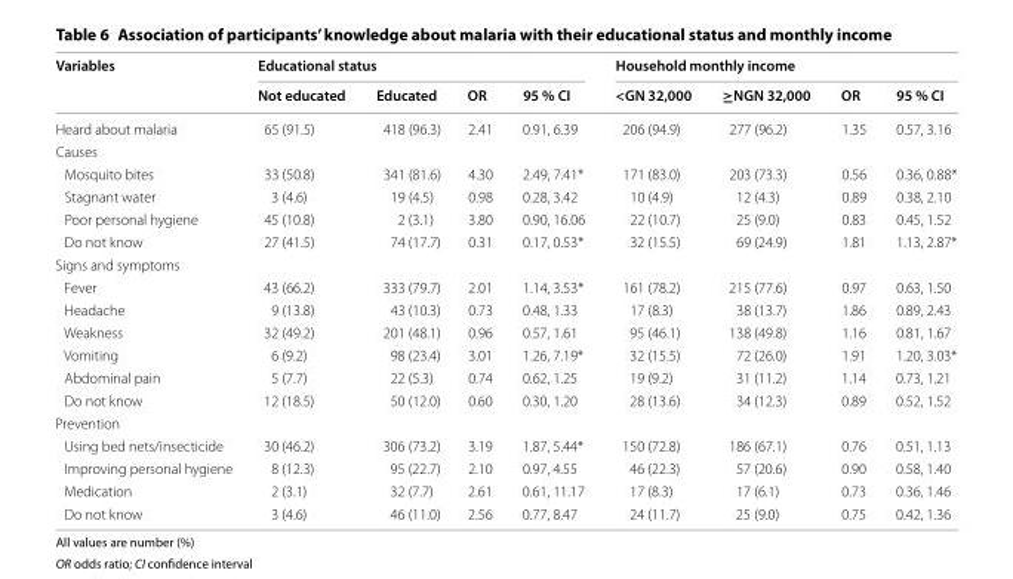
<table><thead><tr><td rowspan="2">Variables</td><td colspan="4">Educational status</td><td colspan="4">Household monthly income</td></tr><tr><td>Not educated</td><td>Educated</td><td>OR</td><td>95 % CI</td><td>&lt;GN 32,000</td><td>≥NGN 32,000</td><td>OR</td><td>95 % CI</td></tr></thead><tbody><tr><td>Heard about malaria</td><td>65 (91.5)</td><td>418 (96.3)</td><td>2.41</td><td>0.91, 6.39</td><td>206 (94.9)</td><td>277 (96.2)</td><td>1.35</td><td>0.57, 3.16</td></tr><tr><td colspan="9">Causes</td></tr><tr><td>Mosquito bites</td><td>33 (50.8)</td><td>341 (81.6)</td><td>4.30</td><td>2.49, 7.41*</td><td>171 (83.0)</td><td>203 (73.3)</td><td>0.56</td><td>0.36, 0.88*</td></tr><tr><td>Stagnant water</td><td>3 (4.6)</td><td>19 (4.5)</td><td>0.98</td><td>0.28, 3.42</td><td>10 (4.9)</td><td>12 (4.3)</td><td>0.89</td><td>0.38, 2.10</td></tr><tr><td>Poor personal hygiene</td><td>45 (10.8)</td><td>2 (3.1)</td><td>3.80</td><td>0.90, 16.06</td><td>22 (10.7)</td><td>25 (9.0)</td><td>0.83</td><td>0.45, 1.52</td></tr><tr><td>Do not know</td><td>27 (41.5)</td><td>74 (17.7)</td><td>0.31</td><td>0.17, 0.53*</td><td>32 (15.5)</td><td>69 (24.9)</td><td>1.81</td><td>1.13, 2.87*</td></tr><tr><td colspan="9">Signs and symptoms</td></tr><tr><td>Fever</td><td>43 (66.2)</td><td>333 (79.7)</td><td>2.01</td><td>1.14, 3.53*</td><td>161 (78.2)</td><td>215 (77.6)</td><td>0.97</td><td>0.63, 1.50</td></tr><tr><td>Headache</td><td>9 (13.8)</td><td>43 (10.3)</td><td>0.73</td><td>0.48, 1.33</td><td>17 (8.3)</td><td>38 (13.7)</td><td>1.86</td><td>0.89, 2.43</td></tr><tr><td>Weakness</td><td>32 (49.2)</td><td>201 (48.1)</td><td>0.96</td><td>0.57, 1.61</td><td>95 (46.1)</td><td>138 (49.8)</td><td>1.16</td><td>0.81, 1.67</td></tr><tr><td>Vomiting</td><td>6 (9.2)</td><td>98 (23.4)</td><td>3.01</td><td>1.26, 7.19*</td><td>32 (15.5)</td><td>72 (26.0)</td><td>1.91</td><td>1.20, 3.03*</td></tr><tr><td>Abdominal pain</td><td>5 (7.7)</td><td>22 (5.3)</td><td>0.74</td><td>0.62, 1.25</td><td>19 (9.2)</td><td>31 (11.2)</td><td>1.14</td><td>0.73, 1.21</td></tr><tr><td>Do not know</td><td>12 (18.5)</td><td>50 (12.0)</td><td>0.60</td><td>0.30, 1.20</td><td>28 (13.6)</td><td>34 (12.3)</td><td>0.89</td><td>0.52, 1.52</td></tr><tr><td colspan="9">Prevention</td></tr><tr><td>Using bed nets/insecticide</td><td>30 (46.2)</td><td>306 (73.2)</td><td>3.19</td><td>1.87, 5.44*</td><td>150 (72.8)</td><td>186 (67.1)</td><td>0.76</td><td>0.51, 1.13</td></tr><tr><td>Improving personal hygiene</td><td>8 (12.3)</td><td>95 (22.7)</td><td>2.10</td><td>0.97, 4.55</td><td>46 (22.3)</td><td>57 (20.6)</td><td>0.90</td><td>0.58, 1.40</td></tr><tr><td>Medication</td><td>2 (3.1)</td><td>32 (7.7)</td><td>2.61</td><td>0.61, 11.17</td><td>17 (8.3)</td><td>17 (6.1)</td><td>0.73</td><td>0.36, 1.46</td></tr><tr><td>Do not know</td><td>3 (4.6)</td><td>46 (11.0)</td><td>2.56</td><td>0.77, 8.47</td><td>24 (11.7)</td><td>25 (9.0)</td><td>0.75</td><td>0.42, 1.36</td></tr></tbody></table>